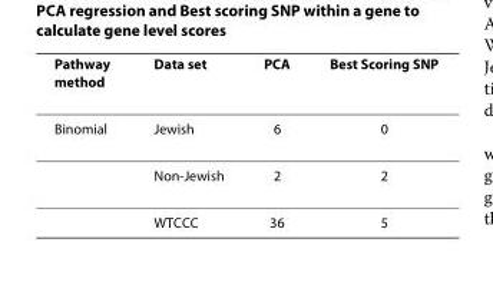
<table><thead><tr><td>Pathway method</td><td>Data set</td><td>PCA</td><td>Best Scoring SNP</td></tr></thead><tbody><tr><td rowspan="3">Binomial</td><td>Jewish</td><td>6</td><td>0</td></tr><tr><td>Non-Jewish</td><td>2</td><td>2</td></tr><tr><td>WTCCC</td><td>36</td><td>5</td></tr></tbody></table>